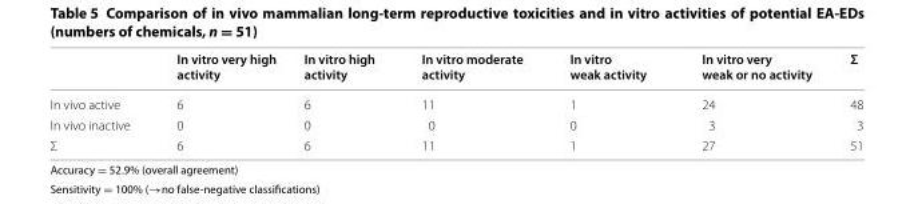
<table><thead><tr><td></td><td>In vitro very high activity</td><td>In vitro high activity</td><td>In vitro moderate activity</td><td>In vitro weak activity</td><td>In vitro very weak or no activity</td><td>Σ</td></tr></thead><tbody><tr><td>In vivo active</td><td>6</td><td>6</td><td>11</td><td>1</td><td>24</td><td>48</td></tr><tr><td>In vivo inactive</td><td>0</td><td>0</td><td>0</td><td>0</td><td>3</td><td>3</td></tr><tr><td>Σ</td><td>6</td><td>6</td><td>11</td><td>1</td><td>27</td><td>51</td></tr></tbody></table>